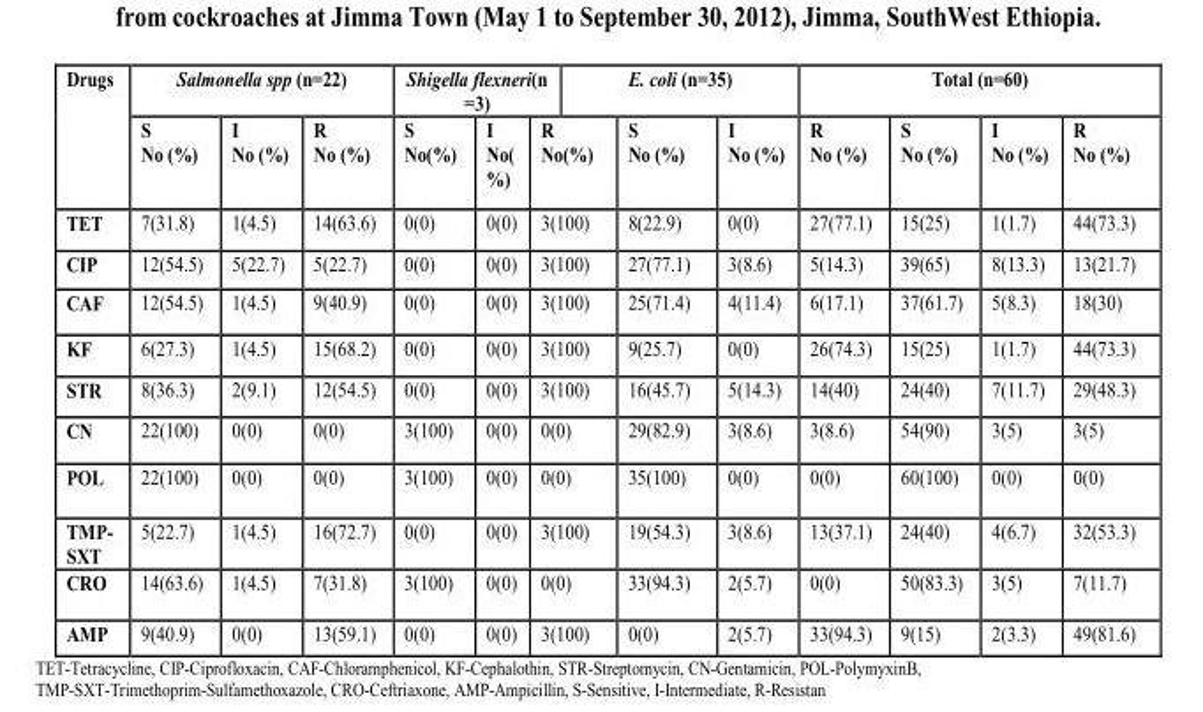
<table><thead><tr><td rowspan="2">Drugs</td><td colspan="3">Salmonella spp (n=22)</td><td colspan="3">Shigella flexneri(n =3)</td><td colspan="3">E. coli (n=35)</td><td colspan="3">Total (n=60)</td></tr><tr><td>S No (%)</td><td>I No (%)</td><td>R No (%)</td><td>S No(%)</td><td>I No( %)</td><td>R No(%)</td><td>S No (%)</td><td>I No (%)</td><td>R No (%)</td><td>S No (%)</td><td>I No (%)</td><td>R No (%)</td></tr></thead><tbody><tr><td>TET</td><td>7(31.8)</td><td>1(4.5)</td><td>14(63.6)</td><td>0(0)</td><td>0(0)</td><td>3(100)</td><td>8(22.9)</td><td>0(0)</td><td>27(77.1)</td><td>15(25)</td><td>1(1.7)</td><td>44(73.3)</td></tr><tr><td>CIP</td><td>12(54.5)</td><td>5(22.7)</td><td>5(22.7)</td><td>0(0)</td><td>0(0)</td><td>3(100)</td><td>27(77.1)</td><td>3(8.6)</td><td>5(14.3)</td><td>39(65)</td><td>8(13.3)</td><td>13(21.7)</td></tr><tr><td>CAF</td><td>12(54.5)</td><td>1(4.5)</td><td>9(40.9)</td><td>0(0)</td><td>0(0)</td><td>3(100)</td><td>25(71.4)</td><td>4(11.4)</td><td>6(17.1)</td><td>37(61.7)</td><td>5(8.3)</td><td>18(30)</td></tr><tr><td>KF</td><td>6(27.3)</td><td>1(4.5)</td><td>15(68.2)</td><td>0(0)</td><td>0(0)</td><td>3(100)</td><td>9(25.7)</td><td>0(0)</td><td>26(74.3)</td><td>15(25)</td><td>1(1.7)</td><td>44(73.3)</td></tr><tr><td>STR</td><td>8(36.3)</td><td>2(9.1)</td><td>12(54.5)</td><td>0(0)</td><td>0(0)</td><td>3(100)</td><td>16(45.7)</td><td>5(14.3)</td><td>14(40)</td><td>24(40)</td><td>7(11.7)</td><td>29(48.3)</td></tr><tr><td>CN</td><td>22(100)</td><td>0(0)</td><td>0(0)</td><td>3(100)</td><td>0(0)</td><td>0(0)</td><td>29(82.9)</td><td>3(8.6)</td><td>3(8.6)</td><td>54(90)</td><td>3(5)</td><td>3(5)</td></tr><tr><td>POL</td><td>22(100)</td><td>0(0)</td><td>0(0)</td><td>3(100)</td><td>0(0)</td><td>0(0)</td><td>35(100)</td><td>0(0)</td><td>0(0)</td><td>60(100)</td><td>0(0)</td><td>0(0)</td></tr><tr><td>TMP- SXT</td><td>5(22.7)</td><td>1(4.5)</td><td>16(72.7)</td><td>0(0)</td><td>0(0)</td><td>3(100)</td><td>19(54.3)</td><td>3(8.6)</td><td>13(37.1)</td><td>24(40)</td><td>4(6.7)</td><td>32(53.3)</td></tr><tr><td>CRO</td><td>14(63.6)</td><td>1(4.5)</td><td>7(31.8)</td><td>3(100)</td><td>0(0)</td><td>0(0)</td><td>33(94.3)</td><td>2(5.7)</td><td>0(0)</td><td>50(83.3)</td><td>3(5)</td><td>7(11.7)</td></tr><tr><td>AMP</td><td>9(40.9)</td><td>0(0)</td><td>13(59.1)</td><td>0(0)</td><td>0(0)</td><td>3(100)</td><td>0(0)</td><td>2(5.7)</td><td>33(94.3)</td><td>9(15)</td><td>2(3.3)</td><td>49(81.6)</td></tr></tbody></table>